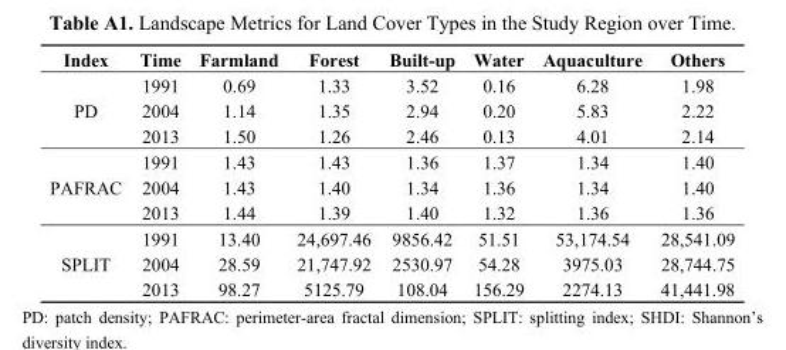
<table><thead><tr><td>Index</td><td>Time</td><td>Farmland</td><td>Forest</td><td>Built-up</td><td>Water</td><td>Aquaculture</td><td>Others</td></tr></thead><tbody><tr><td rowspan="3">PD</td><td>1991</td><td>0.69</td><td>1.33</td><td>3.52</td><td>0.16</td><td>6.28</td><td>1.98</td></tr><tr><td>2004</td><td>1.14</td><td>1.35</td><td>2.94</td><td>0.20</td><td>5.83</td><td>2.22</td></tr><tr><td>2013</td><td>1.50</td><td>1.26</td><td>2.46</td><td>0.13</td><td>4.01</td><td>2.14</td></tr><tr><td rowspan="3">PAFRAC</td><td>1991</td><td>1.43</td><td>1.43</td><td>1.36</td><td>1.37</td><td>1.34</td><td>1.40</td></tr><tr><td>2004</td><td>1.43</td><td>1.40</td><td>1.34</td><td>1.36</td><td>1.34</td><td>1.40</td></tr><tr><td>2013</td><td>1.44</td><td>1.39</td><td>1.40</td><td>1.32</td><td>1.36</td><td>1.36</td></tr><tr><td rowspan="3">SPLIT</td><td>1991</td><td>13.40</td><td>24,697.46</td><td>9856.42</td><td>51.51</td><td>53,174.54</td><td>28,541.09</td></tr><tr><td>2004</td><td>28.59</td><td>21,747.92</td><td>2530.97</td><td>54.28</td><td>3975.03</td><td>28,744.75</td></tr><tr><td>2013</td><td>98.27</td><td>5125.79</td><td>108.04</td><td>156.29</td><td>2274.13</td><td>41,441.98</td></tr></tbody></table>